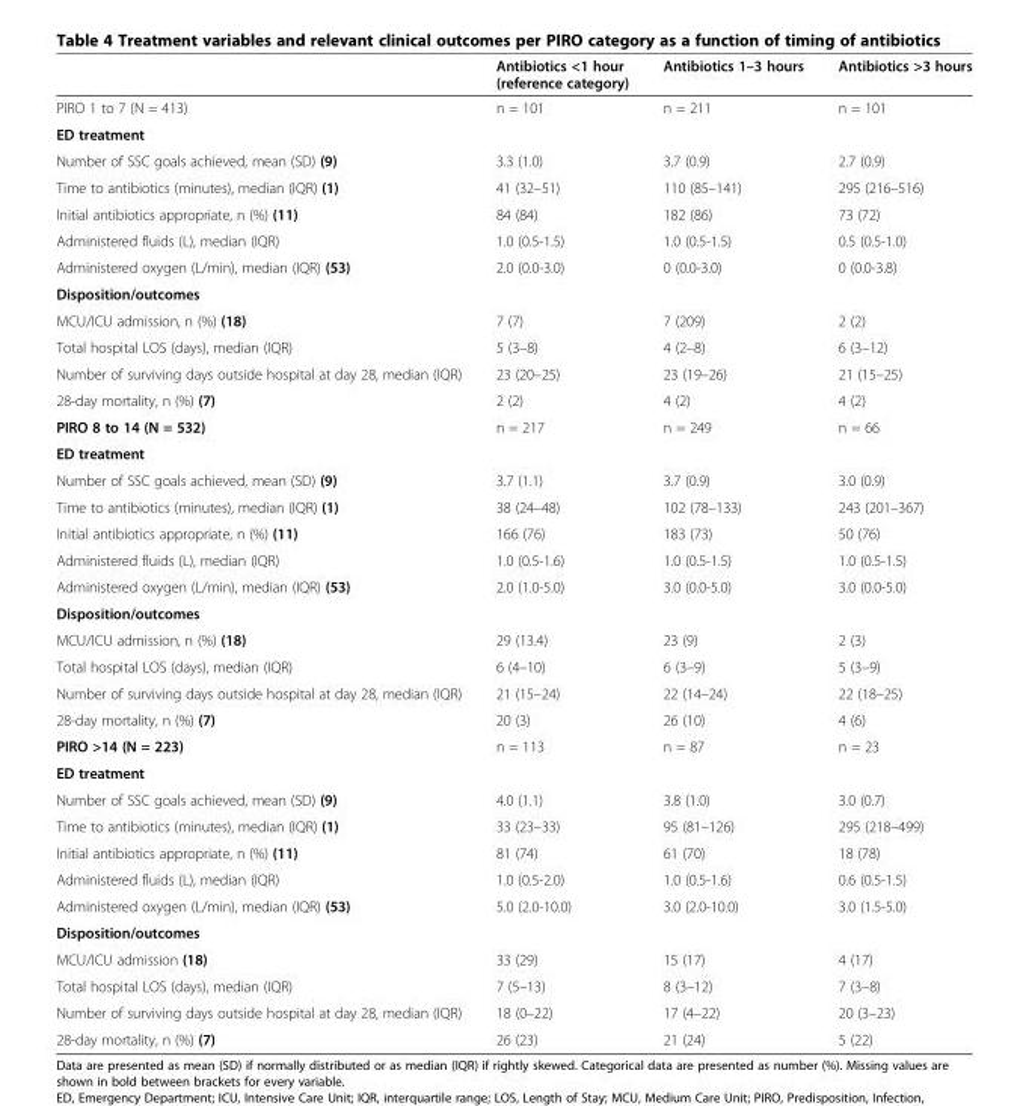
<table><thead><tr><td></td><td>Antibiotics &lt;1 hour (reference category)</td><td>Antibiotics 1–3 hours</td><td>Antibiotics &gt;3 hours</td></tr></thead><tbody><tr><td>PIRO 1 to 7 (N = 413)</td><td>n = 101</td><td>n = 211</td><td>n = 101</td></tr><tr><td colspan="4">ED treatment</td></tr><tr><td>Number of SSC goals achieved, mean (SD) (9)</td><td>3.3 (1.0)</td><td>3.7 (0.9)</td><td>2.7 (0.9)</td></tr><tr><td>Time to antibiotics (minutes), median (IQR) (1)</td><td>41 (32–51)</td><td>110 (85–141)</td><td>295 (216–516)</td></tr><tr><td>Initial antibiotics appropriate, n (%) (11)</td><td>84 (84)</td><td>182 (86)</td><td>73 (72)</td></tr><tr><td>Administered fluids (L), median (IQR)</td><td>1.0 (0.5-1.5)</td><td>1.0 (0.5-1.5)</td><td>0.5 (0.5-1.0)</td></tr><tr><td>Administered oxygen (L/min), median (IQR) (53)</td><td>2.0 (0.0-3.0)</td><td>0 (0.0-3.0)</td><td>0 (0.0-3.8)</td></tr><tr><td colspan="4">Disposition/outcomes</td></tr><tr><td>MCU/ICU admission, n (%) (18)</td><td>7 (7)</td><td>7 (209)</td><td>2 (2)</td></tr><tr><td>Total hospital LOS (days), median (IQR)</td><td>5 (3–8)</td><td>4 (2–8)</td><td>6 (3–12)</td></tr><tr><td>Number of surviving days outside hospital at day 28, median (IQR)</td><td>23 (20–25)</td><td>23 (19–26)</td><td>21 (15–25)</td></tr><tr><td>28-day mortality, n (%) (7)</td><td>2 (2)</td><td>4 (2)</td><td>4 (2)</td></tr><tr><td>PIRO 8 to 14 (N = 532)</td><td>n = 217</td><td>n = 249</td><td>n = 66</td></tr><tr><td colspan="4">ED treatment</td></tr><tr><td>Number of SSC goals achieved, mean (SD) (9)</td><td>3.7 (1.1)</td><td>3.7 (0.9)</td><td>3.0 (0.9)</td></tr><tr><td>Time to antibiotics (minutes), median (IQR) (1)</td><td>38 (24–48)</td><td>102 (78–133)</td><td>243 (201–367)</td></tr><tr><td>Initial antibiotics appropriate, n (%) (11)</td><td>166 (76)</td><td>183 (73)</td><td>50 (76)</td></tr><tr><td>Administered fluids (L), median (IQR)</td><td>1.0 (0.5-1.6)</td><td>1.0 (0.5-1.5)</td><td>1.0 (0.5-1.5)</td></tr><tr><td>Administered oxygen (L/min), median (IQR) (53)</td><td>2.0 (1.0-5.0)</td><td>3.0 (0.0-5.0)</td><td>3.0 (0.0-5.0)</td></tr><tr><td colspan="4">Disposition/outcomes</td></tr><tr><td>MCU/ICU admission, n (%) (18)</td><td>29 (13.4)</td><td>23 (9)</td><td>2 (3)</td></tr><tr><td>Total hospital LOS (days), median (IQR)</td><td>6 (4–10)</td><td>6 (3–9)</td><td>5 (3–9)</td></tr><tr><td>Number of surviving days outside hospital at day 28, median (IQR)</td><td>21 (15–24)</td><td>22 (14–24)</td><td>22 (18–25)</td></tr><tr><td>28-day mortality, n (%) (7)</td><td>20 (3)</td><td>26 (10)</td><td>4 (6)</td></tr><tr><td>PIRO &gt;14 (N = 223)</td><td>n = 113</td><td>n = 87</td><td>n = 23</td></tr><tr><td colspan="4">ED treatment</td></tr><tr><td>Number of SSC goals achieved, mean (SD) (9)</td><td>4.0 (1.1)</td><td>3.8 (1.0)</td><td>3.0 (0.7)</td></tr><tr><td>Time to antibiotics (minutes), median (IQR) (1)</td><td>33 (23–33)</td><td>95 (81–126)</td><td>295 (218–499)</td></tr><tr><td>Initial antibiotics appropriate, n (%) (11)</td><td>81 (74)</td><td>61 (70)</td><td>18 (78)</td></tr><tr><td>Administered fluids (L), median (IQR)</td><td>1.0 (0.5-2.0)</td><td>1.0 (0.5-1.6)</td><td>0.6 (0.5-1.5)</td></tr><tr><td>Administered oxygen (L/min), median (IQR) (53)</td><td>5.0 (2.0-10.0)</td><td>3.0 (2.0-10.0)</td><td>3.0 (1.5-5.0)</td></tr><tr><td colspan="4">Disposition/outcomes</td></tr><tr><td>MCU/ICU admission (18)</td><td>33 (29)</td><td>15 (17)</td><td>4 (17)</td></tr><tr><td>Total hospital LOS (days), median (IQR)</td><td>7 (5–13)</td><td>8 (3–12)</td><td>7 (3–8)</td></tr><tr><td>Number of surviving days outside hospital at day 28, median (IQR)</td><td>18 (0–22)</td><td>17 (4–22)</td><td>20 (3–23)</td></tr><tr><td>28-day mortality, n (%) (7)</td><td>26 (23)</td><td>21 (24)</td><td>5 (22)</td></tr></tbody></table>